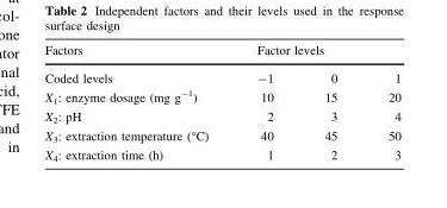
<table><thead><tr><td rowspan="2">Factors Coded levels</td><td colspan="3">Factor levels</td></tr><tr><td>-1</td><td>0</td><td>1</td></tr></thead><tbody><tr><td>X<sub>1</sub>: enzyme dosage (mg g<sup>-1</sup>)</td><td>10</td><td>15</td><td>20</td></tr><tr><td>X<sub>2</sub>: pH</td><td>2</td><td>3</td><td>4</td></tr><tr><td>X<sub>3</sub>: extraction temperature (°C)</td><td>40</td><td>45</td><td>50</td></tr><tr><td>X<sub>4</sub>: extraction time (h)</td><td>1</td><td>2</td><td>3</td></tr></tbody></table>